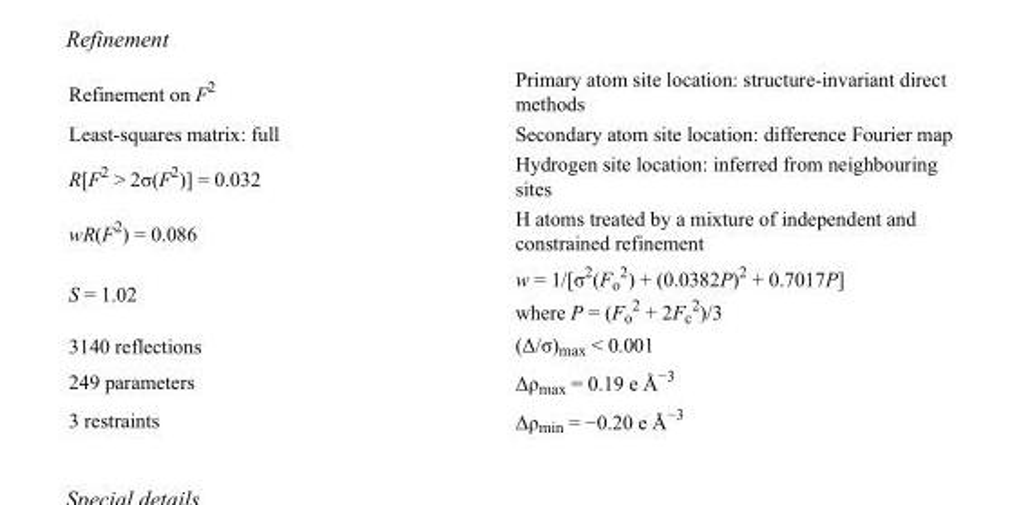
<table><tbody><tr><td>Refinement on F<sup>2</sup></td><td>Primary atom site location: structure-invariant direct methods</td></tr><tr><td>Least-squares matrix: full</td><td>Secondary atom site location: difference Fourier map</td></tr><tr><td>R[F<sup>2</sup> &gt; 2σ(F<sup>2</sup>)] = 0.032</td><td>Hydrogen site location: inferred from neighbouring sites</td></tr><tr><td>wR(F<sup>2</sup>) = 0.086</td><td>H atoms treated by a mixture of independent and constrained refinement</td></tr><tr><td>S = 1.02</td><td>w = 1/[σ<sup>2</sup>(F<sub>o</sub> <sup>2</sup>) + (0.0382P)<sup>2</sup> + 0.7017P] where P = (F<sub>o</sub> <sup>2</sup> + 2F<sub>c</sub> <sup>2</sup>)/3</td></tr><tr><td>3140 reflections</td><td>(Δ/σ)<sub>max</sub> &lt; 0.001</td></tr><tr><td>249 parameters</td><td>Δρ<sub>max</sub> = 0.19 e Å<sup>−3</sup></td></tr><tr><td>3 restraints</td><td>Δρ<sub>min</sub> = −0.20 e Å<sup>−3</sup></td></tr></tbody></table>